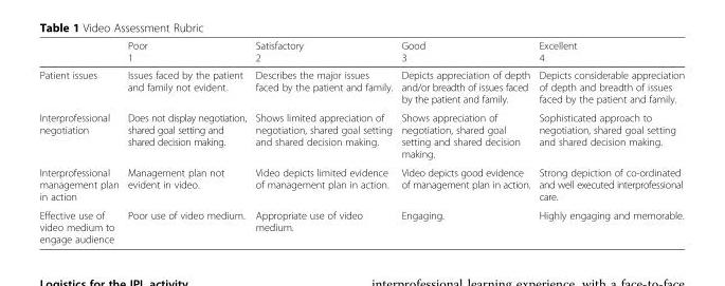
<table><thead><tr><td></td><td>Poor 1</td><td>Satisfactory 2</td><td>Good 3</td><td>Excellent 4</td></tr></thead><tbody><tr><td>Patient issues</td><td>Issues faced by the patient and family not evident.</td><td>Describes the major issues faced by the patient and family.</td><td>Depicts appreciation of depth and/or breadth of issues faced by the patient and family.</td><td>Depicts considerable appreciation of depth and breadth of issues faced by the patient and family.</td></tr><tr><td>Interprofessional negotiation</td><td>Does not display negotiation, shared goal setting and shared decision making.</td><td>Shows limited appreciation of negotiation, shared goal setting and shared decision making.</td><td>Shows appreciation of negotiation, shared goal setting and shared decision making.</td><td>Sophisticated approach to negotiation, shared goal setting and shared decision making.</td></tr><tr><td>Interprofessional management plan in action</td><td>Management plan not evident in video.</td><td>Video depicts limited evidence of management plan in action.</td><td>Video depicts good evidence of management plan in action.</td><td>Strong depiction of co-ordinated and well executed interprofessional care.</td></tr><tr><td>Effective use of video medium to engage audience</td><td>Poor use of video medium.</td><td>Appropriate use of video medium.</td><td>Engaging.</td><td>Highly engaging and memorable.</td></tr></tbody></table>